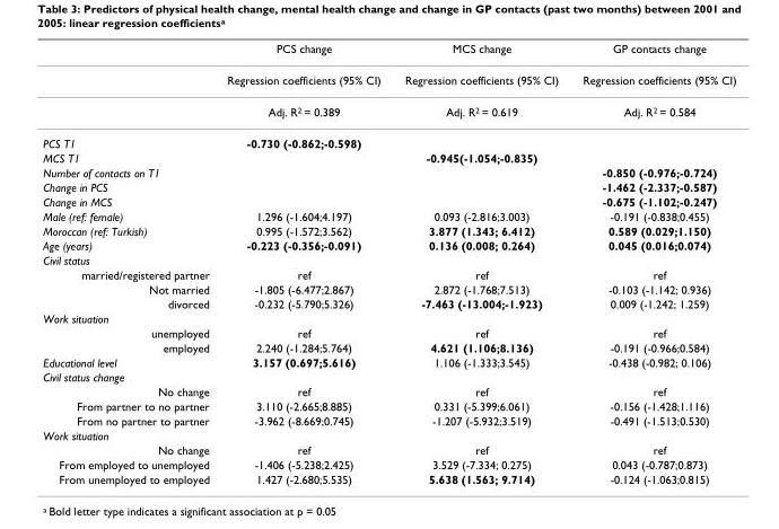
<table><thead><tr><td></td><td>PCS change</td><td>MCS change</td><td>GP contacts change</td></tr></thead><tbody><tr><td></td><td>Regression coefficients (95% CI)</td><td>Regression coefficients (95% CI)</td><td>Regression coefficients (95% CI)</td></tr><tr><td></td><td>Adj. R<sup>2</sup> = 0.389</td><td>Adj. R<sup>2</sup> = 0.619</td><td>Adj. R<sup>2</sup> = 0.584</td></tr><tr><td>PCS T1</td><td>-0.730 (-0.862;-0.598)</td><td></td><td></td></tr><tr><td>MCS T1</td><td></td><td>-0.945(-1.054;-0.835)</td><td></td></tr><tr><td>Number of contacts on T1</td><td></td><td></td><td>-0.850 (-0.976;-0.724)</td></tr><tr><td>Change in PCS</td><td></td><td></td><td>-1.462 (-2.337;-0.587)</td></tr><tr><td>Change in MCS</td><td></td><td></td><td>-0.675 (-1.102;-0.247)</td></tr><tr><td>Male (ref: female)</td><td>1.296 (-1.604;4.197)</td><td>0.093 (-2.816;3.003)</td><td>-0.191 (-0.838;0.455)</td></tr><tr><td>Moroccan (ref: Turkish)</td><td>0.995 (-1.572;3.562)</td><td>3.877 (1.343; 6.412)</td><td>0.589 (0.029;1.150)</td></tr><tr><td>Age (years)</td><td>-0.223 (-0.356;-0.091)</td><td>0.136 (0.008; 0.264)</td><td>0.045 (0.016;0.074)</td></tr><tr><td colspan="4">Civil status</td></tr><tr><td>married/registered partner</td><td>ref</td><td>ref</td><td>ref</td></tr><tr><td>Not married</td><td>-1.805 (-6.477;2.867)</td><td>2.872 (-1.768;7.513)</td><td>-0.103 (-1.142; 0.936)</td></tr><tr><td>divorced</td><td>-0.232 (-5.790;5.326)</td><td>-7.463 (-13.004;-1.923)</td><td>0.009 (-1.242; 1.259)</td></tr><tr><td colspan="4">Work situation</td></tr><tr><td>unemployed</td><td>ref</td><td>ref</td><td>ref</td></tr><tr><td>employed</td><td>2.240 (-1.284;5.764)</td><td>4.621 (1.106;8.136)</td><td>-0.191 (-0.966;0.584)</td></tr><tr><td>Educational level</td><td>3.157 (0.697;5.616)</td><td>1.106 (-1.333;3.545)</td><td>-0.438 (-0.982; 0.106)</td></tr><tr><td colspan="4">Civil status change</td></tr><tr><td>No change</td><td>ref</td><td>ref</td><td>ref</td></tr><tr><td>From partner to no partner</td><td>3.110 (-2.665;8.885)</td><td>0.331 (-5.399;6.061)</td><td>-0.156 (-1.428;1.116)</td></tr><tr><td>From no partner to partner</td><td>-3.962 (-8.669;0.745)</td><td>-1.207 (-5.932;3.519)</td><td>-0.491 (-1.513;0.530)</td></tr><tr><td colspan="4">Work situation</td></tr><tr><td>No change</td><td>ref</td><td>ref</td><td>ref</td></tr><tr><td>From employed to unemployed</td><td>-1.406 (-5.238;2.425)</td><td>3.529 (-7.334; 0.275)</td><td>0.043 (-0.787;0.873)</td></tr><tr><td>From unemployed to employed</td><td>1.427 (-2.680;5.535)</td><td>5.638 (1.563; 9.714)</td><td>-0.124 (-1.063;0.815)</td></tr></tbody></table>